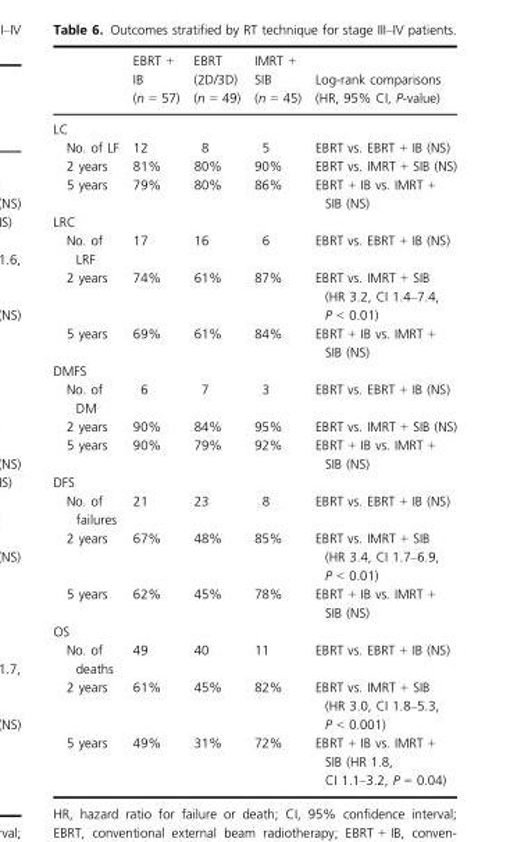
<table><thead><tr><td></td><td>EBRT + IB (n = 57)</td><td>EBRT (2D/3D) (n = 49)</td><td>IMRT + SIB (n = 45)</td><td>Log-rank comparisons (HR, 95% CI, P-value)</td></tr></thead><tbody><tr><td colspan="5">LC</td></tr><tr><td>No. of LF</td><td>12</td><td>8</td><td>5</td><td>EBRT vs. EBRT + IB (NS)</td></tr><tr><td>2 years</td><td>81%</td><td>80%</td><td>90%</td><td>EBRT vs. IMRT + SIB (NS)</td></tr><tr><td>5 years</td><td>79%</td><td>80%</td><td>86%</td><td>EBRT + IB vs. IMRT + SIB (NS)</td></tr><tr><td colspan="5">LRC</td></tr><tr><td>No. of LRF</td><td>17</td><td>16</td><td>6</td><td>EBRT vs. EBRT + IB (NS)</td></tr><tr><td>2 years</td><td>74%</td><td>61%</td><td>87%</td><td>EBRT vs. IMRT + SIB (HR 3.2, CI 1.4–7.4, P &lt; 0.01)</td></tr><tr><td>5 years</td><td>69%</td><td>61%</td><td>84%</td><td>EBRT + IB vs. IMRT + SIB (NS)</td></tr><tr><td colspan="5">DMFS</td></tr><tr><td>No. of DM</td><td>6</td><td>7</td><td>3</td><td>EBRT vs. EBRT + IB (NS)</td></tr><tr><td>2 years</td><td>90%</td><td>84%</td><td>95%</td><td>EBRT vs. IMRT + SIB (NS)</td></tr><tr><td>5 years</td><td>90%</td><td>79%</td><td>92%</td><td>EBRT + IB vs. IMRT + SIB (NS)</td></tr><tr><td colspan="5">DFS</td></tr><tr><td>No. of failures</td><td>21</td><td>23</td><td>8</td><td>EBRT vs. EBRT + IB (NS)</td></tr><tr><td>2 years</td><td>67%</td><td>48%</td><td>85%</td><td>EBRT vs. IMRT + SIB (HR 3.4, CI 1.7–6.9, P &lt; 0.01)</td></tr><tr><td>5 years</td><td>62%</td><td>45%</td><td>78%</td><td>EBRT + IB vs. IMRT + SIB (NS)</td></tr><tr><td colspan="5">OS</td></tr><tr><td>No. of deaths</td><td>49</td><td>40</td><td>11</td><td>EBRT vs. EBRT + IB (NS)</td></tr><tr><td>2 years</td><td>61%</td><td>45%</td><td>82%</td><td>EBRT vs. IMRT + SIB (HR 3.0, CI 1.8–5.3, P &lt; 0.001)</td></tr><tr><td>5 years</td><td>49%</td><td>31%</td><td>72%</td><td>EBRT + IB vs. IMRT + SIB (HR 1.8, CI 1.1–3.2, P = 0.04)</td></tr></tbody></table>